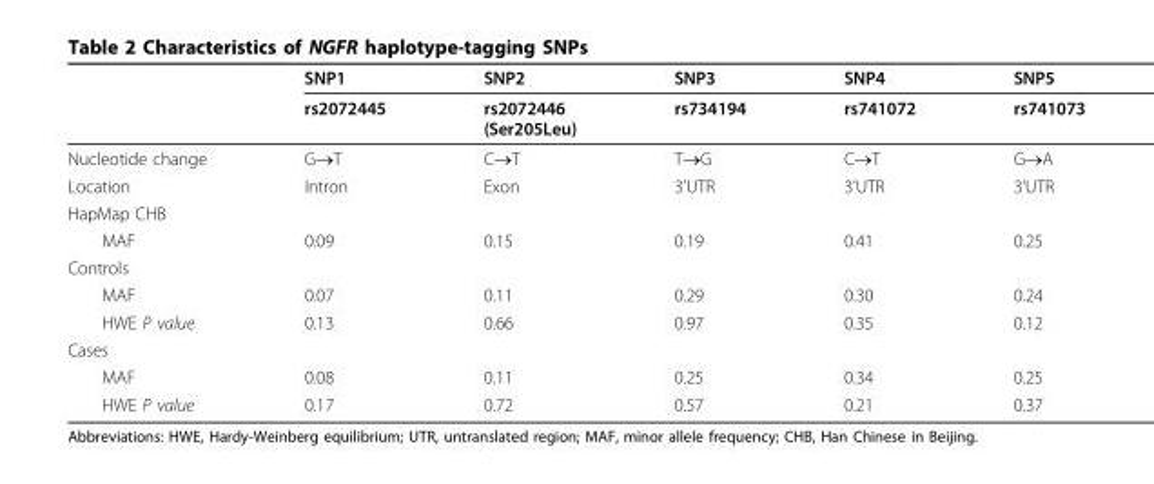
<table><thead><tr><td rowspan="2"></td><td rowspan="2">SNP1 rs2072445</td><td rowspan="2">SNP2 rs2072446 (Ser205Leu)</td><td rowspan="2">SNP3 rs734194</td><td rowspan="2">SNP4 rs741072</td><td rowspan="2">SNP5 rs741073</td></tr><tr></tr></thead><tbody><tr><td>Nucleotide change</td><td>G→T</td><td>C→T</td><td>T→G</td><td>C→T</td><td>G→A</td></tr><tr><td>Location</td><td>Intron</td><td>Exon</td><td>3’UTR</td><td>3’UTR</td><td>3’UTR</td></tr><tr><td colspan="6">HapMap CHB</td></tr><tr><td>MAF</td><td>0.09</td><td>0.15</td><td>0.19</td><td>0.41</td><td>0.25</td></tr><tr><td colspan="6">Controls</td></tr><tr><td>MAF</td><td>0.07</td><td>0.11</td><td>0.29</td><td>0.30</td><td>0.24</td></tr><tr><td>HWE P value</td><td>0.13</td><td>0.66</td><td>0.97</td><td>0.35</td><td>0.12</td></tr><tr><td colspan="6">Cases</td></tr><tr><td>MAF</td><td>0.08</td><td>0.11</td><td>0.25</td><td>0.34</td><td>0.25</td></tr><tr><td>HWE P value</td><td>0.17</td><td>0.72</td><td>0.57</td><td>0.21</td><td>0.37</td></tr></tbody></table>